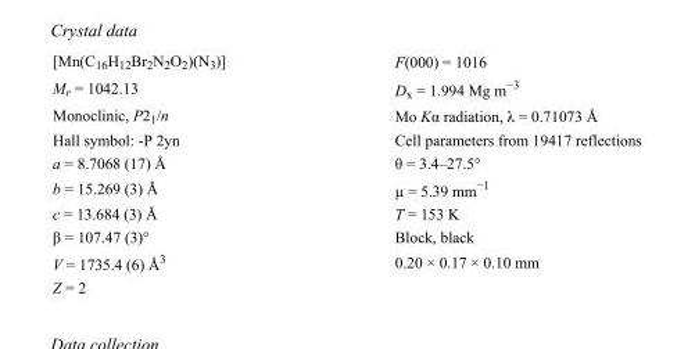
<table><tbody><tr><td>[Mn(C<sub>16</sub>H<sub>12</sub>Br<sub>2</sub>N<sub>2</sub>O<sub>2</sub>)(N<sub>3</sub>)]</td><td>F(000) = 1016</td></tr><tr><td>M<sub>r</sub> = 1042.13</td><td>D<sub>x</sub> = 1.994 Mg m<sup>−3</sup></td></tr><tr><td>Monoclinic, P2<sub>1</sub>/n</td><td>Mo Kα radiation, λ = 0.71073 Å</td></tr><tr><td>Hall symbol: -P 2yn</td><td>Cell parameters from 19417 reflections</td></tr><tr><td>a = 8.7068 (17) Å</td><td>θ = 3.4–27.5°</td></tr><tr><td>b = 15.269 (3) Å</td><td>µ = 5.39 mm<sup>−1</sup></td></tr><tr><td>c = 13.684 (3) Å</td><td>T = 153 K</td></tr><tr><td>β = 107.47 (3)°</td><td>Block, black</td></tr><tr><td>V = 1735.4 (6) Å<sup>3</sup></td><td>0.20 × 0.17 × 0.10 mm</td></tr><tr><td>Z = 2</td><td></td></tr></tbody></table>